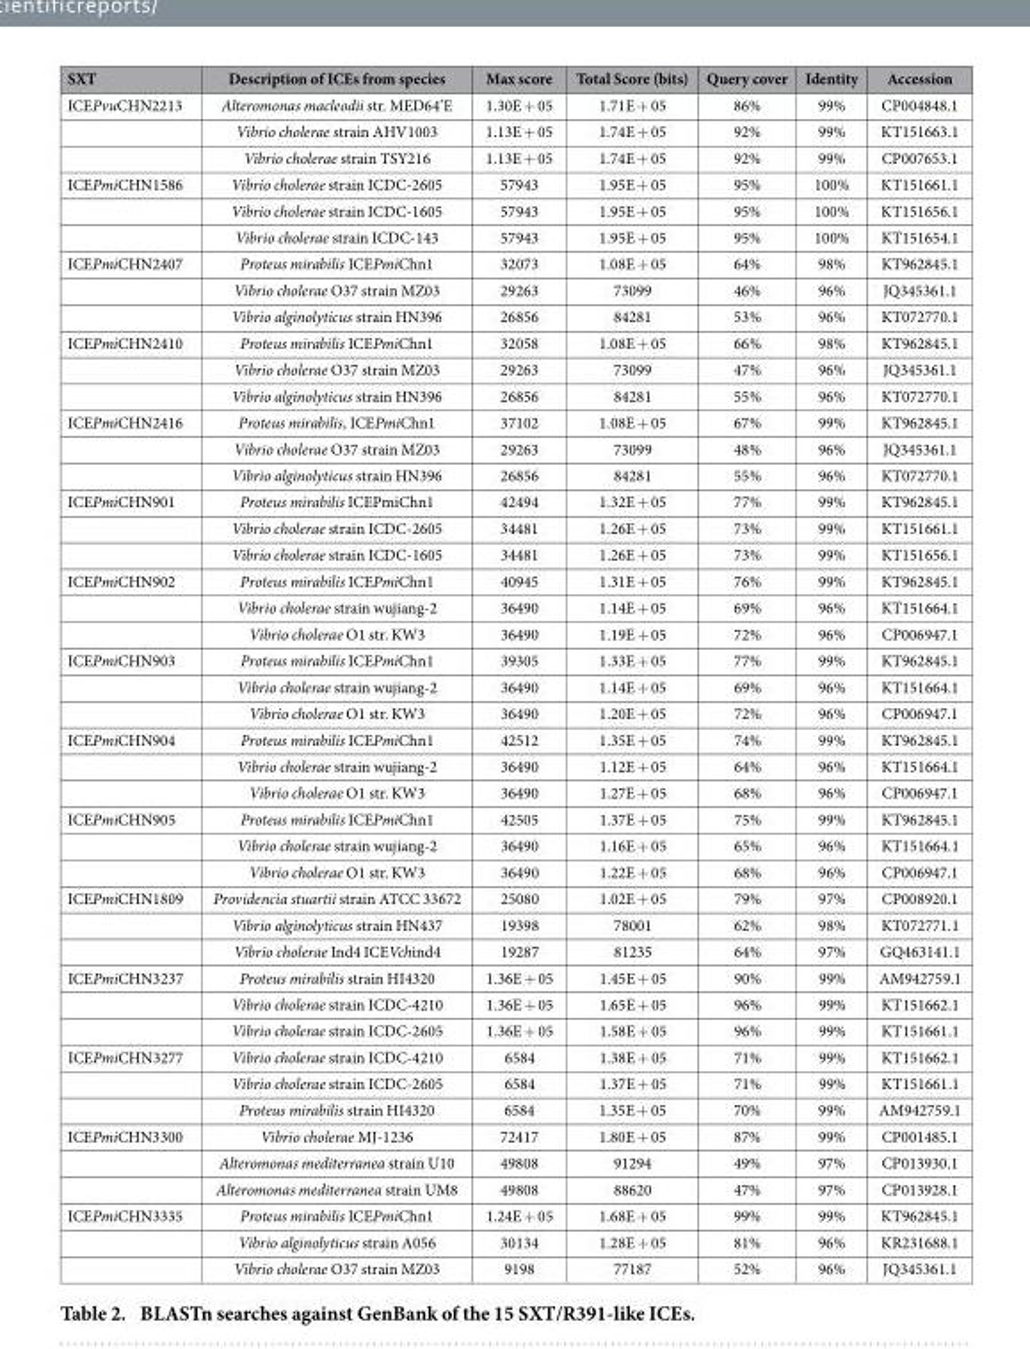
<table><thead><tr><td>SXT</td><td>Description of ICEs from species</td><td>Max score</td><td>Total Score (bits)</td><td>Query cover</td><td>Identity</td><td>Accession</td></tr></thead><tbody><tr><td rowspan="3">ICEPvuCHN2213</td><td>Alteromonas macleodii str. MED64’E</td><td>1.30E + 05</td><td>1.71E + 05</td><td>86%</td><td>99%</td><td>CP004848.1</td></tr><tr><td>Vibrio cholerae strain AHV1003</td><td>1.13E + 05</td><td>1.74E + 05</td><td>92%</td><td>99%</td><td>KT151663.1</td></tr><tr><td>Vibrio cholerae strain TSY216</td><td>1.13E + 05</td><td>1.74E + 05</td><td>92%</td><td>99%</td><td>CP007653.1</td></tr><tr><td rowspan="3">ICEPmiCHN1586</td><td>Vibrio cholerae strain ICDC-2605</td><td>57943</td><td>1.95E + 05</td><td>95%</td><td>100%</td><td>KT151661.1</td></tr><tr><td>Vibrio cholerae strain ICDC-1605</td><td>57943</td><td>1.95E + 05</td><td>95%</td><td>100%</td><td>KT151656.1</td></tr><tr><td>Vibrio cholerae strain ICDC-143</td><td>57943</td><td>1.95E + 05</td><td>95%</td><td>100%</td><td>KT151654.1</td></tr><tr><td rowspan="3">ICEPmiCHN2407</td><td>Proteus mirabilis ICEPmiChn1</td><td>32073</td><td>1.08E + 05</td><td>64%</td><td>98%</td><td>KT962845.1</td></tr><tr><td>Vibrio cholerae O37 strain MZ03</td><td>29263</td><td>73099</td><td>46%</td><td>96%</td><td>JQ345361.1</td></tr><tr><td>Vibrio alginolyticus strain HN396</td><td>26856</td><td>84281</td><td>53%</td><td>96%</td><td>KT072770.1</td></tr><tr><td rowspan="3">ICEPmiCHN2410</td><td>Proteus mirabilis ICEPmiChn1</td><td>32058</td><td>1.08E + 05</td><td>66%</td><td>98%</td><td>KT962845.1</td></tr><tr><td>Vibrio cholerae O37 strain MZ03</td><td>29263</td><td>73099</td><td>47%</td><td>96%</td><td>JQ345361.1</td></tr><tr><td>Vibrio alginolyticus strain HN396</td><td>26856</td><td>84281</td><td>55%</td><td>96%</td><td>KT072770.1</td></tr><tr><td rowspan="3">ICEPmiCHN2416</td><td>Proteus mirabilis, ICEPmiChn1</td><td>37102</td><td>1.08E + 05</td><td>67%</td><td>99%</td><td>KT962845.1</td></tr><tr><td>Vibrio cholerae O37 strain MZ03</td><td>29263</td><td>73099</td><td>48%</td><td>96%</td><td>JQ345361.1</td></tr><tr><td>Vibrio alginolyticus strain HN396</td><td>26856</td><td>84281</td><td>55%</td><td>96%</td><td>KT072770.1</td></tr><tr><td rowspan="3">ICEPmiCHN901</td><td>Proteus mirabilis ICEPmiChn1</td><td>42494</td><td>1.32E + 05</td><td>77%</td><td>99%</td><td>KT962845.1</td></tr><tr><td>Vibrio cholerae strain ICDC-2605</td><td>34481</td><td>1.26E + 05</td><td>73%</td><td>99%</td><td>KT151661.1</td></tr><tr><td>Vibrio cholerae strain ICDC-1605</td><td>34481</td><td>1.26E + 05</td><td>73%</td><td>99%</td><td>KT151656.1</td></tr><tr><td rowspan="3">ICEPmiCHN902</td><td>Proteus mirabilis ICEPmiChn1</td><td>40945</td><td>1.31E + 05</td><td>76%</td><td>99%</td><td>KT962845.1</td></tr><tr><td>Vibrio cholerae strain wujiang-2</td><td>36490</td><td>1.14E + 05</td><td>69%</td><td>96%</td><td>KT151664.1</td></tr><tr><td>Vibrio cholerae O1 str. KW3</td><td>36490</td><td>1.19E + 05</td><td>72%</td><td>96%</td><td>CP006947.1</td></tr><tr><td rowspan="3">ICEPmiCHN903</td><td>Proteus mirabilis ICEPmiChn1</td><td>39305</td><td>1.33E + 05</td><td>77%</td><td>99%</td><td>KT962845.1</td></tr><tr><td>Vibrio cholerae strain wujiang-2</td><td>36490</td><td>1.14E + 05</td><td>69%</td><td>96%</td><td>KT151664.1</td></tr><tr><td>Vibrio cholerae O1 str. KW3</td><td>36490</td><td>1.20E + 05</td><td>72%</td><td>96%</td><td>CP006947.1</td></tr><tr><td rowspan="3">ICEPmiCHN904</td><td>Proteus mirabilis ICEPmiChn1</td><td>42512</td><td>1.35E + 05</td><td>74%</td><td>99%</td><td>KT962845.1</td></tr><tr><td>Vibrio cholerae strain wujiang-2</td><td>36490</td><td>1.12E + 05</td><td>64%</td><td>96%</td><td>KT151664.1</td></tr><tr><td>Vibrio cholerae O1 str. KW3</td><td>36490</td><td>1.27E + 05</td><td>68%</td><td>96%</td><td>CP006947.1</td></tr><tr><td rowspan="3">ICEPmiCHN905</td><td>Proteus mirabilis ICEPmiChn1</td><td>42505</td><td>1.37E + 05</td><td>75%</td><td>99%</td><td>KT962845.1</td></tr><tr><td>Vibrio cholerae strain wujiang-2</td><td>36490</td><td>1.16E + 05</td><td>65%</td><td>96%</td><td>KT151664.1</td></tr><tr><td>Vibrio cholerae O1 str. KW3</td><td>36490</td><td>1.22E + 05</td><td>68%</td><td>96%</td><td>CP006947.1</td></tr><tr><td rowspan="3">ICEPmiCHN1809</td><td>Providencia stuartii strain ATCC 33672</td><td>25080</td><td>1.02E + 05</td><td>79%</td><td>97%</td><td>CP008920.1</td></tr><tr><td>Vibrio alginolyticus strain HN437</td><td>19398</td><td>78001</td><td>62%</td><td>98%</td><td>KT072771.1</td></tr><tr><td>Vibrio cholerae Ind4 ICEVchind4</td><td>19287</td><td>81235</td><td>64%</td><td>97%</td><td>GQ463141.1</td></tr><tr><td rowspan="3">ICEPmiCHN3237</td><td>Proteus mirabilis strain HI4320</td><td>1.36E + 05</td><td>1.45E + 05</td><td>90%</td><td>99%</td><td>AM942759.1</td></tr><tr><td>Vibrio cholerae strain ICDC-4210</td><td>1.36E + 05</td><td>1.65E + 05</td><td>96%</td><td>99%</td><td>KT151662.1</td></tr><tr><td>Vibrio cholerae strain ICDC-2605</td><td>1.36E + 05</td><td>1.58E + 05</td><td>96%</td><td>99%</td><td>KT151661.1</td></tr><tr><td rowspan="3">ICEPmiCHN3277</td><td>Vibrio cholerae strain ICDC-4210</td><td>6584</td><td>1.38E + 05</td><td>71%</td><td>99%</td><td>KT151662.1</td></tr><tr><td>Vibrio cholerae strain ICDC-2605</td><td>6584</td><td>1.37E + 05</td><td>71%</td><td>99%</td><td>KT151661.1</td></tr><tr><td>Proteus mirabilis strain HI4320</td><td>6584</td><td>1.35E + 05</td><td>70%</td><td>99%</td><td>AM942759.1</td></tr><tr><td rowspan="3">ICEPmiCHN3300</td><td>Vibrio cholerae MJ-1236</td><td>72417</td><td>1.80E + 05</td><td>87%</td><td>99%</td><td>CP001485.1</td></tr><tr><td>Alteromonas mediterranea strain U10</td><td>49808</td><td>91294</td><td>49%</td><td>97%</td><td>CP013930.1</td></tr><tr><td>Alteromonas mediterranea strain UM8</td><td>49808</td><td>88620</td><td>47%</td><td>97%</td><td>CP013928.1</td></tr><tr><td rowspan="3">ICEPmiCHN3335</td><td>Proteus mirabilis ICEPmiChn1</td><td>1.24E + 05</td><td>1.68E + 05</td><td>99%</td><td>99%</td><td>KT962845.1</td></tr><tr><td>Vibrio alginolyticus strain A056</td><td>30134</td><td>1.28E + 05</td><td>81%</td><td>96%</td><td>KR231688.1</td></tr><tr><td>Vibrio cholerae O37 strain MZ03</td><td>9198</td><td>77187</td><td>52%</td><td>96%</td><td>JQ345361.1</td></tr></tbody></table>